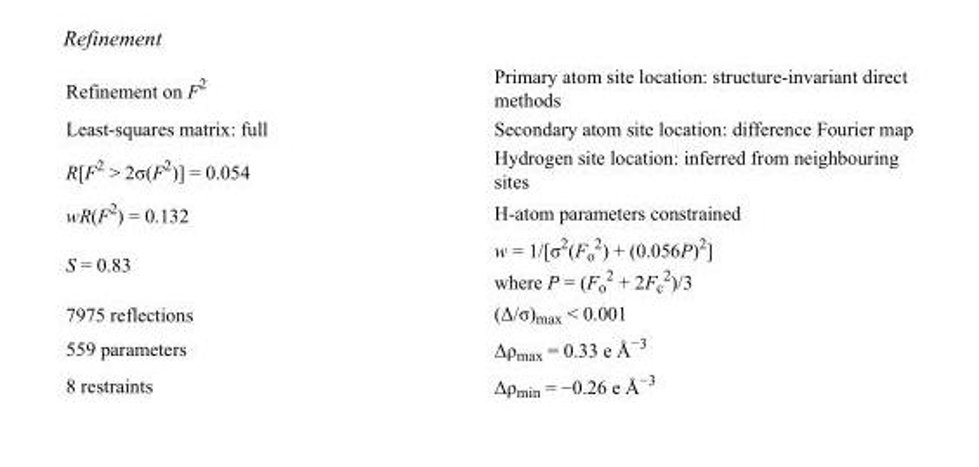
<table><tbody><tr><td>Refinement on F<sup>2</sup></td><td>Primary atom site location: structure-invariant direct methods</td></tr><tr><td>Least-squares matrix: full</td><td>Secondary atom site location: difference Fourier map</td></tr><tr><td>R[F<sup>2</sup> &gt; 2σ(F<sup>2</sup>)] = 0.054</td><td>Hydrogen site location: inferred from neighbouring sites</td></tr><tr><td>wR(F<sup>2</sup>) = 0.132</td><td>H-atom parameters constrained</td></tr><tr><td>S = 0.83</td><td>w = 1/[σ<sup>2</sup>(F<sub>o</sub> <sup>2</sup>) + (0.056P)<sup>2</sup>] where P = (F<sub>o</sub> <sup>2</sup> + 2F<sub>c</sub> <sup>2</sup>)/3</td></tr><tr><td>7975 reflections</td><td>(Δ/σ)<sub>max</sub> &lt; 0.001</td></tr><tr><td>559 parameters</td><td>Δρ<sub>max</sub> = 0.33 e Å<sup>−3</sup></td></tr><tr><td>8 restraints</td><td>Δρ<sub>min</sub> = −0.26 e Å<sup>−3</sup></td></tr></tbody></table>